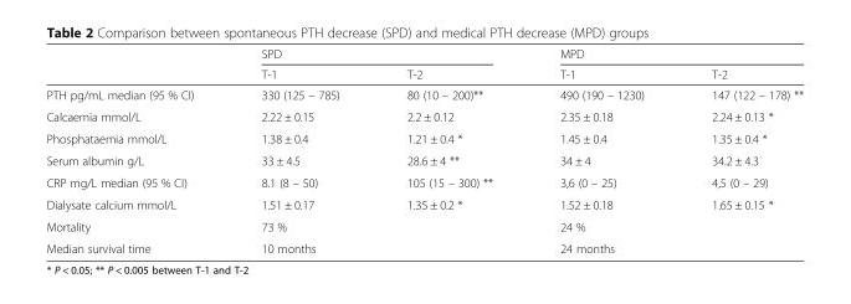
<table><thead><tr><td rowspan="2"></td><td colspan="2">SPD</td><td colspan="2">MPD</td></tr><tr><td>T-1</td><td>T-2</td><td>T-1</td><td>T-2</td></tr></thead><tbody><tr><td>PTH pg/mL median (95 % CI)</td><td>330 (125 – 785)</td><td>80 (10 – 200)**</td><td>490 (190 – 1230)</td><td>147 (122 – 178) **</td></tr><tr><td>Calcaemia mmol/L</td><td>2.22 ± 0.15</td><td>2.2 ± 0.12</td><td>2.35 ± 0.18</td><td>2.24 ± 0.13 *</td></tr><tr><td>Phosphataemia mmol/L</td><td>1.38 ± 0.4</td><td>1.21 ± 0.4 *</td><td>1.45 ± 0.4</td><td>1.35 ± 0.4 *</td></tr><tr><td>Serum albumin g/L</td><td>33 ± 4.5</td><td>28.6 ± 4 **</td><td>34 ± 4</td><td>34.2 ± 4.3</td></tr><tr><td>CRP mg/L median (95 % CI)</td><td>8.1 (8 – 50)</td><td>105 (15 – 300) **</td><td>3,6 (0 – 25)</td><td>4,5 (0 – 29)</td></tr><tr><td>Dialysate calcium mmol/L</td><td>1.51 ± 0.17</td><td>1.35 ± 0.2 *</td><td>1.52 ± 0.18</td><td>1.65 ± 0.15 *</td></tr><tr><td>Mortality</td><td colspan="2">73 %</td><td colspan="2">24 %</td></tr><tr><td>Median survival time</td><td colspan="2">10 months</td><td colspan="2">24 months</td></tr></tbody></table>